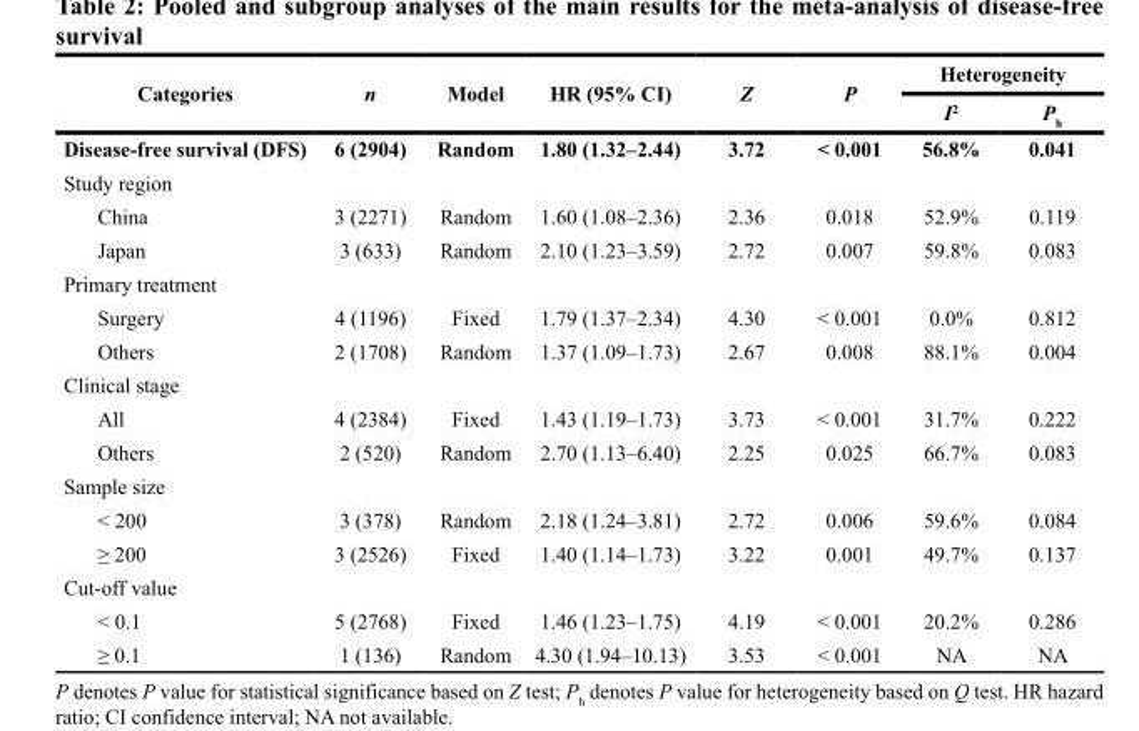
<table><thead><tr><td rowspan="2">Categories</td><td rowspan="2">n</td><td rowspan="2">Model</td><td rowspan="2">HR (95% CI)</td><td rowspan="2">Z</td><td rowspan="2">P</td><td colspan="2">Heterogeneity</td></tr><tr><td>I<sup>2</sup></td><td>P<sub>h</sub></td></tr></thead><tbody><tr><td>Disease-free survival (DFS)</td><td>6 (2904)</td><td>Random</td><td>1.80 (1.32–2.44)</td><td>3.72</td><td>&lt; 0.001</td><td>56.8%</td><td>0.041</td></tr><tr><td colspan="8">Study region</td></tr><tr><td>China</td><td>3 (2271)</td><td>Random</td><td>1.60 (1.08–2.36)</td><td>2.36</td><td>0.018</td><td>52.9%</td><td>0.119</td></tr><tr><td>Japan</td><td>3 (633)</td><td>Random</td><td>2.10 (1.23–3.59)</td><td>2.72</td><td>0.007</td><td>59.8%</td><td>0.083</td></tr><tr><td colspan="8">Primary treatment</td></tr><tr><td>Surgery</td><td>4 (1196)</td><td>Fixed</td><td>1.79 (1.37–2.34)</td><td>4.30</td><td>&lt; 0.001</td><td>0.0%</td><td>0.812</td></tr><tr><td>Others</td><td>2 (1708)</td><td>Random</td><td>1.37 (1.09–1.73)</td><td>2.67</td><td>0.008</td><td>88.1%</td><td>0.004</td></tr><tr><td colspan="8">Clinical stage</td></tr><tr><td>All</td><td>4 (2384)</td><td>Fixed</td><td>1.43 (1.19–1.73)</td><td>3.73</td><td>&lt; 0.001</td><td>31.7%</td><td>0.222</td></tr><tr><td>Others</td><td>2 (520)</td><td>Random</td><td>2.70 (1.13–6.40)</td><td>2.25</td><td>0.025</td><td>66.7%</td><td>0.083</td></tr><tr><td colspan="8">Sample size</td></tr><tr><td>&lt; 200</td><td>3 (378)</td><td>Random</td><td>2.18 (1.24–3.81)</td><td>2.72</td><td>0.006</td><td>59.6%</td><td>0.084</td></tr><tr><td>≥ 200</td><td>3 (2526)</td><td>Fixed</td><td>1.40 (1.14–1.73)</td><td>3.22</td><td>0.001</td><td>49.7%</td><td>0.137</td></tr><tr><td colspan="8">Cut-off value</td></tr><tr><td>&lt; 0.1</td><td>5 (2768)</td><td>Fixed</td><td>1.46 (1.23–1.75)</td><td>4.19</td><td>&lt; 0.001</td><td>20.2%</td><td>0.286</td></tr><tr><td>≥ 0.1</td><td>1 (136)</td><td>Random</td><td>4.30 (1.94–10.13)</td><td>3.53</td><td>&lt; 0.001</td><td>NA</td><td>NA</td></tr></tbody></table>